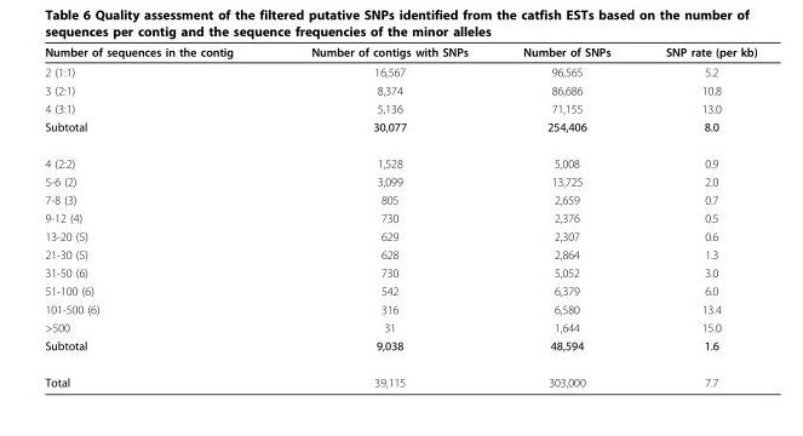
<table><thead><tr><td>Number of sequences in the contig</td><td>Number of contigs with SNPs</td><td>Number of SNPs</td><td>SNP rate (per kb)</td></tr></thead><tbody><tr><td>2 (1:1)</td><td>16,567</td><td>96,565</td><td>5.2</td></tr><tr><td>3 (2:1)</td><td>8,374</td><td>86,686</td><td>10.8</td></tr><tr><td>4 (3:1)</td><td>5,136</td><td>71,155</td><td>13.0</td></tr><tr><td>Subtotal</td><td>30,077</td><td>254,406</td><td>8.0</td></tr><tr><td>4 (2:2)</td><td>1,528</td><td>5,008</td><td>0.9</td></tr><tr><td>5-6 (2)</td><td>3,099</td><td>13,725</td><td>2.0</td></tr><tr><td>7-8 (3)</td><td>805</td><td>2,659</td><td>0.7</td></tr><tr><td>9-12 (4)</td><td>730</td><td>2,376</td><td>0.5</td></tr><tr><td>13-20 (5)</td><td>629</td><td>2,307</td><td>0.6</td></tr><tr><td>21-30 (5)</td><td>628</td><td>2,864</td><td>1.3</td></tr><tr><td>31-50 (6)</td><td>730</td><td>5,052</td><td>3.0</td></tr><tr><td>51-100 (6)</td><td>542</td><td>6,379</td><td>6.0</td></tr><tr><td>101-500 (6)</td><td>316</td><td>6,580</td><td>13.4</td></tr><tr><td>&gt;500</td><td>31</td><td>1,644</td><td>15.0</td></tr><tr><td>Subtotal</td><td>9,038</td><td>48,594</td><td>1.6</td></tr><tr><td>Total</td><td>39,115</td><td>303,000</td><td>7.7</td></tr></tbody></table>